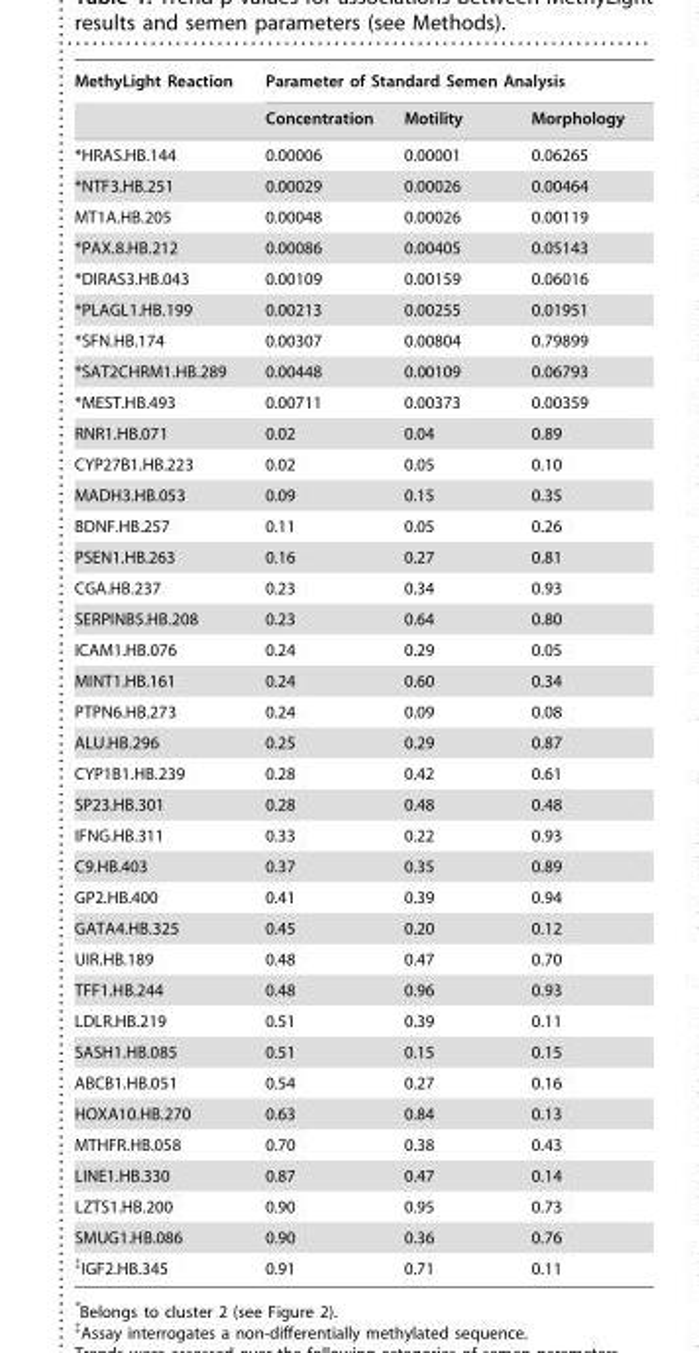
<table><thead><tr><td rowspan="2">MethyLight Reaction</td><td colspan="3">Parameter of Standard Semen Analysis</td></tr><tr><td>Concentration</td><td>Motility</td><td>Morphology</td></tr></thead><tbody><tr><td>*HRAS.HB.144</td><td>0.00006</td><td>0.00001</td><td>0.06265</td></tr><tr><td>*NTF3.HB.251</td><td>0.00029</td><td>0.00026</td><td>0.00464</td></tr><tr><td>MT1A.HB.205</td><td>0.00048</td><td>0.00026</td><td>0.00119</td></tr><tr><td>*PAX.8.HB.212</td><td>0.00086</td><td>0.00405</td><td>0.05143</td></tr><tr><td>*DIRAS3.HB.043</td><td>0.00109</td><td>0.00159</td><td>0.06016</td></tr><tr><td>*PLAGL1.HB.199</td><td>0.00213</td><td>0.00255</td><td>0.01951</td></tr><tr><td>*SFN.HB.174</td><td>0.00307</td><td>0.00804</td><td>0.79899</td></tr><tr><td>*SAT2CHRM1.HB.289</td><td>0.00448</td><td>0.00109</td><td>0.06793</td></tr><tr><td>*MEST.HB.493</td><td>0.00711</td><td>0.00373</td><td>0.00359</td></tr><tr><td>RNR1.HB.071</td><td>0.02</td><td>0.04</td><td>0.89</td></tr><tr><td>CYP27B1.HB.223</td><td>0.02</td><td>0.05</td><td>0.10</td></tr><tr><td>MADH3.HB.053</td><td>0.09</td><td>0.15</td><td>0.35</td></tr><tr><td>BDNF.HB.257</td><td>0.11</td><td>0.05</td><td>0.26</td></tr><tr><td>PSEN1.HB.263</td><td>0.16</td><td>0.27</td><td>0.81</td></tr><tr><td>CGA.HB.237</td><td>0.23</td><td>0.34</td><td>0.93</td></tr><tr><td>SERPINB5.HB.208</td><td>0.23</td><td>0.64</td><td>0.80</td></tr><tr><td>ICAM1.HB.076</td><td>0.24</td><td>0.29</td><td>0.05</td></tr><tr><td>MINT1.HB.161</td><td>0.24</td><td>0.60</td><td>0.34</td></tr><tr><td>PTPN6.HB.273</td><td>0.24</td><td>0.09</td><td>0.08</td></tr><tr><td>ALU.HB.296</td><td>0.25</td><td>0.29</td><td>0.87</td></tr><tr><td>CYP1B1.HB.239</td><td>0.28</td><td>0.42</td><td>0.61</td></tr><tr><td>SP23.HB.301</td><td>0.28</td><td>0.48</td><td>0.48</td></tr><tr><td>IFNG.HB.311</td><td>0.33</td><td>0.22</td><td>0.93</td></tr><tr><td>C9.HB.403</td><td>0.37</td><td>0.35</td><td>0.89</td></tr><tr><td>GP2.HB.400</td><td>0.41</td><td>0.39</td><td>0.94</td></tr><tr><td>GATA4.HB.325</td><td>0.45</td><td>0.20</td><td>0.12</td></tr><tr><td>UIR.HB.189</td><td>0.48</td><td>0.47</td><td>0.70</td></tr><tr><td>TFF1.HB.244</td><td>0.48</td><td>0.96</td><td>0.93</td></tr><tr><td>LDLR.HB.219</td><td>0.51</td><td>0.39</td><td>0.11</td></tr><tr><td>SASH1.HB.085</td><td>0.51</td><td>0.15</td><td>0.15</td></tr><tr><td>ABCB1.HB.051</td><td>0.54</td><td>0.27</td><td>0.16</td></tr><tr><td>HOXA10.HB.270</td><td>0.63</td><td>0.84</td><td>0.13</td></tr><tr><td>MTHFR.HB.058</td><td>0.70</td><td>0.38</td><td>0.43</td></tr><tr><td>LINE1.HB.330</td><td>0.87</td><td>0.47</td><td>0.14</td></tr><tr><td>LZTS1.HB.200</td><td>0.90</td><td>0.95</td><td>0.73</td></tr><tr><td>SMUG1.HB.086</td><td>0.90</td><td>0.36</td><td>0.76</td></tr><tr><td>‡IGF2.HB.345</td><td>0.91</td><td>0.71</td><td>0.11</td></tr></tbody></table>